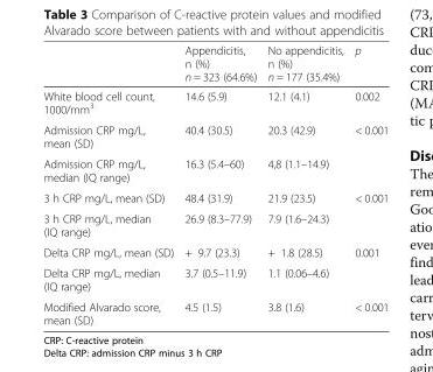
<table><thead><tr><td></td><td>Appendicitis, n (%) n = 323 (64.6%)</td><td>No appendicitis, n (%) n = 177 (35.4%)</td><td>p</td></tr></thead><tbody><tr><td>White blood cell count, 1000/mm<sup>3</sup></td><td>14.6 (5.9)</td><td>12.1 (4.1)</td><td>0.002</td></tr><tr><td>Admission CRP mg/L, mean (SD)</td><td>40.4 (30.5)</td><td>20.3 (42.9)</td><td>&lt; 0.001</td></tr><tr><td>Admission CRP mg/L, median (IQ range)</td><td>16.3 (5.4–60)</td><td>4,8 (1.1–14.9)</td><td></td></tr><tr><td>3 h CRP mg/L, mean (SD)</td><td>48.4 (31.9)</td><td>21.9 (23.5)</td><td>&lt; 0.001</td></tr><tr><td>3 h CRP mg/L, median (IQ range)</td><td>26.9 (8.3–77.9)</td><td>7.9 (1.6–24.3)</td><td></td></tr><tr><td>Delta CRP mg/L, mean (SD)</td><td>+ 9.7 (23.3)</td><td>+ 1.8 (28.5)</td><td>0.001</td></tr><tr><td>Delta CRP mg/L, median (IQ range)</td><td>3.7 (0.5–11.9)</td><td>1.1 (0.06–4.6)</td><td></td></tr><tr><td>Modified Alvarado score, mean (SD)</td><td>4.5 (1.5)</td><td>3.8 (1.6)</td><td>&lt; 0.001</td></tr></tbody></table>